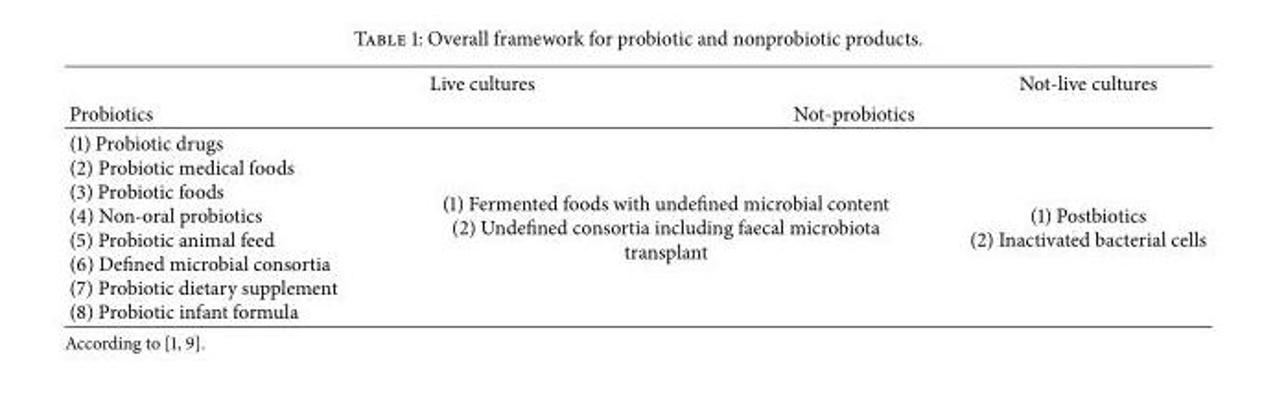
<table><thead><tr><td colspan="2">Live cultures</td><td>Not-live cultures</td></tr><tr><td rowspan="2">Probiotics (1) Probiotic drugs (2) Probiotic medical foods (3) Probiotic foods (4) Non-oral probiotics (5) Probiotic animal feed (6) Defined microbial consortia (7) Probiotic dietary supplement (8) Probiotic infant formula</td><td colspan="2">Not-probiotics</td></tr><tr><td>(1) Fermented foods with undefined microbial content (2) Undefined consortia including faecal microbiota transplant</td><td>(1) Postbiotics (2) Inactivated bacterial cells</td></tr></thead><tbody></tbody></table>